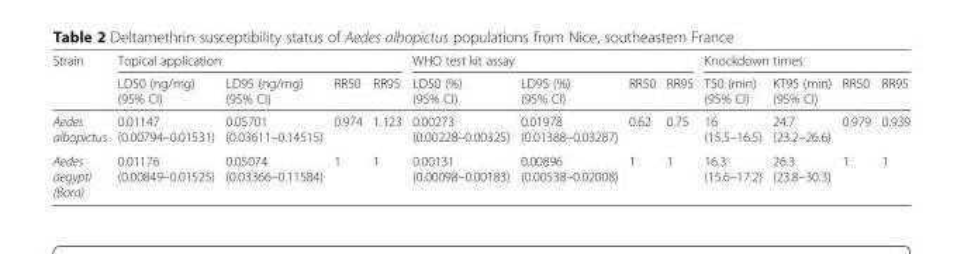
<table><thead><tr><td rowspan="2">Strain</td><td colspan="4">Topical application</td><td colspan="4">WHO test kit assay</td><td colspan="4">Knockdown times</td></tr><tr><td>LD50 (ng/mg) (95% CI)</td><td>LD95 (ng/mg) (95% CI)</td><td>RR50</td><td>RR95</td><td>LD50 (%) (95% CI)</td><td>LD95 (%) (95% CI)</td><td>RR50</td><td>RR95</td><td>T50 (min) (95% CI)</td><td>KT95 (min) (95% CI)</td><td>RR50</td><td>RR95</td></tr></thead><tbody><tr><td>Aedes albopictus</td><td>0.01147 (0.00794–0.01531)</td><td>0.05701 (0.03611–0.14515)</td><td>0.974</td><td>1.123</td><td>0.00273 (0.00228–0.00325)</td><td>0.01978 (0.01388–0.03287)</td><td>0.62</td><td>0.75</td><td>16 (15.5–16.5)</td><td>24.7 (23.2–26.6)</td><td>0.979</td><td>0.939</td></tr><tr><td>Aedes aegypti (Bora)</td><td>0.01176 (0.00849–0.01525)</td><td>0.05074 (0.03366–0.11584)</td><td>1</td><td>1</td><td>0.00131 (0.00098–0.00183)</td><td>0.00896 (0.00538–0.02008)</td><td>1</td><td>1</td><td>16.3 (15.6–17.2)</td><td>26.3 (23.8–30.3)</td><td>1</td><td>1</td></tr></tbody></table>